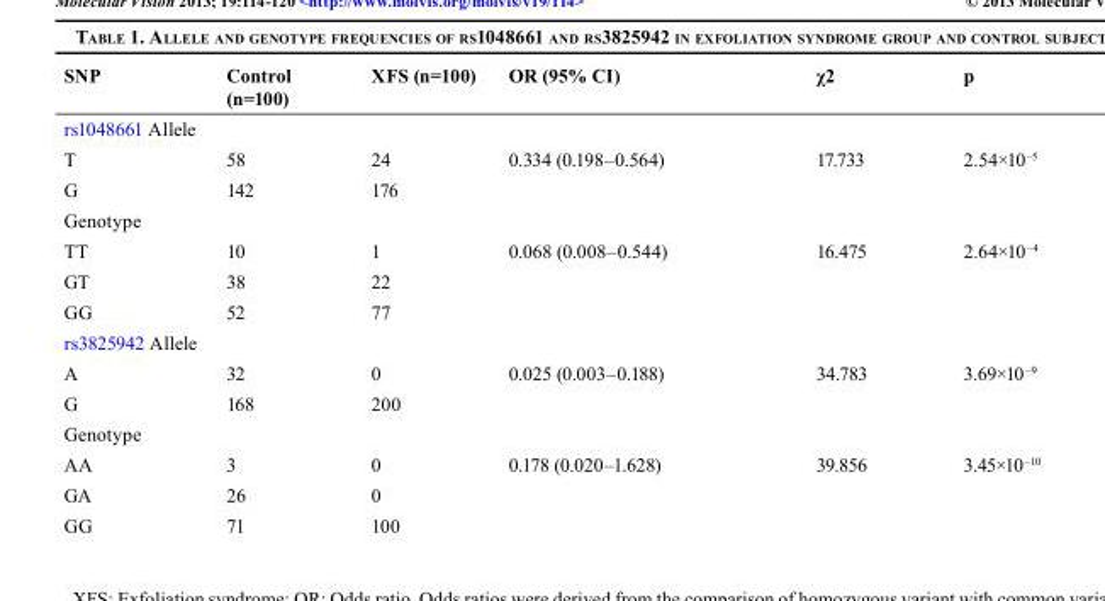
<table><thead><tr><td>SNP</td><td>Control (n=100)</td><td>XFS (n=100)</td><td>OR (95% CI)</td><td>χ2</td><td>p</td></tr></thead><tbody><tr><td colspan="6">rs1048661 Allele</td></tr><tr><td>T</td><td>58</td><td>24</td><td>0.334 (0.198–0.564)</td><td>17.733</td><td>2.54×10<sup>–5</sup></td></tr><tr><td>G</td><td>142</td><td>176</td><td></td><td></td><td></td></tr><tr><td colspan="6">Genotype</td></tr><tr><td>TT</td><td>10</td><td>1</td><td>0.068 (0.008–0.544)</td><td>16.475</td><td>2.64×10<sup>–4</sup></td></tr><tr><td>GT</td><td>38</td><td>22</td><td></td><td></td><td></td></tr><tr><td>GG</td><td>52</td><td>77</td><td></td><td></td><td></td></tr><tr><td colspan="6">rs3825942 Allele</td></tr><tr><td>A</td><td>32</td><td>0</td><td>0.025 (0.003–0.188)</td><td>34.783</td><td>3.69×10<sup>–9</sup></td></tr><tr><td>G</td><td>168</td><td>200</td><td></td><td></td><td></td></tr><tr><td colspan="6">Genotype</td></tr><tr><td>AA</td><td>3</td><td>0</td><td>0.178 (0.020–1.628)</td><td>39.856</td><td>3.45×10<sup>–10</sup></td></tr><tr><td>GA</td><td>26</td><td>0</td><td></td><td></td><td></td></tr><tr><td>GG</td><td>71</td><td>100</td><td></td><td></td><td></td></tr></tbody></table>